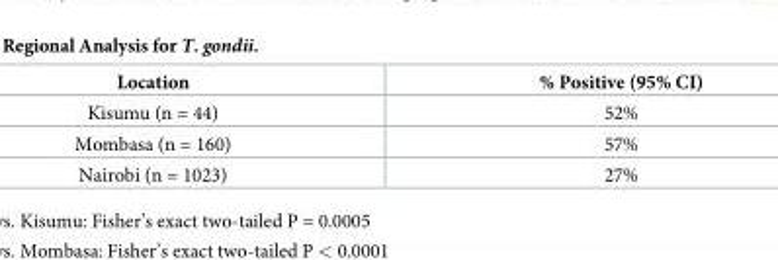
<table><thead><tr><td>Location</td><td>% Positive (95% CI)</td></tr></thead><tbody><tr><td>Kisumu (n = 44)</td><td>52%</td></tr><tr><td>Mombasa (n = 160)</td><td>57%</td></tr><tr><td>Nairobi (n = 1023)</td><td>27%</td></tr></tbody></table>